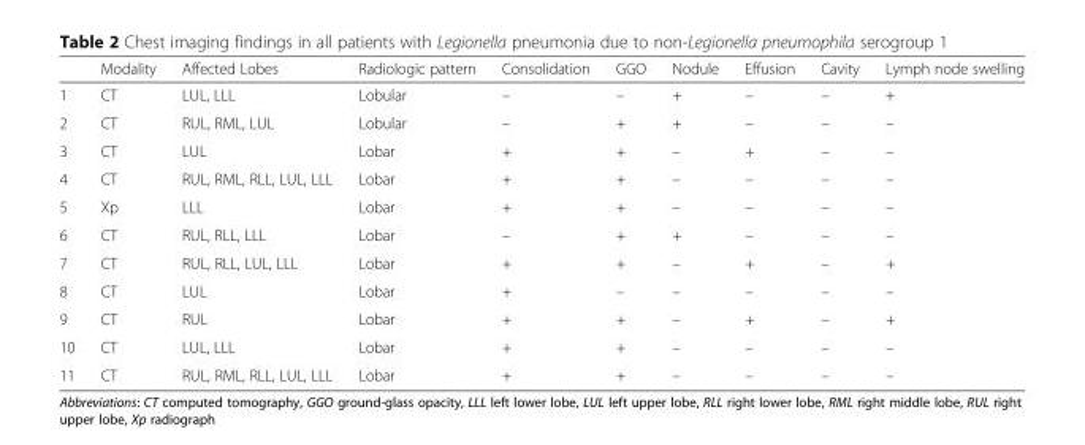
<table><thead><tr><td></td><td>Modality</td><td>Affected Lobes</td><td>Radiologic pattern</td><td>Consolidation</td><td>GGO</td><td>Nodule</td><td>Effusion</td><td>Cavity</td><td>Lymph node swelling</td></tr></thead><tbody><tr><td>1</td><td>CT</td><td>LUL, LLL</td><td>Lobular</td><td>–</td><td>–</td><td>+</td><td>–</td><td>–</td><td>+</td></tr><tr><td>2</td><td>CT</td><td>RUL, RML, LUL</td><td>Lobular</td><td>–</td><td>+</td><td>+</td><td>–</td><td>–</td><td>–</td></tr><tr><td>3</td><td>CT</td><td>LUL</td><td>Lobar</td><td>+</td><td>+</td><td>–</td><td>+</td><td>–</td><td>–</td></tr><tr><td>4</td><td>CT</td><td>RUL, RML, RLL, LUL, LLL</td><td>Lobar</td><td>+</td><td>+</td><td>–</td><td>–</td><td>–</td><td>–</td></tr><tr><td>5</td><td>Xp</td><td>LLL</td><td>Lobar</td><td>+</td><td>+</td><td>–</td><td>–</td><td>–</td><td>–</td></tr><tr><td>6</td><td>CT</td><td>RUL, RLL, LLL</td><td>Lobar</td><td>–</td><td>+</td><td>+</td><td>–</td><td>–</td><td>–</td></tr><tr><td>7</td><td>CT</td><td>RUL, RLL, LUL, LLL</td><td>Lobar</td><td>+</td><td>+</td><td>–</td><td>+</td><td>–</td><td>+</td></tr><tr><td>8</td><td>CT</td><td>LUL</td><td>Lobar</td><td>+</td><td>–</td><td>–</td><td>–</td><td>–</td><td>–</td></tr><tr><td>9</td><td>CT</td><td>RUL</td><td>Lobar</td><td>+</td><td>+</td><td>–</td><td>+</td><td>–</td><td>+</td></tr><tr><td>10</td><td>CT</td><td>LUL, LLL</td><td>Lobar</td><td>+</td><td>+</td><td>–</td><td>–</td><td>–</td><td>–</td></tr><tr><td>11</td><td>CT</td><td>RUL, RML, RLL, LUL, LLL</td><td>Lobar</td><td>+</td><td>+</td><td>–</td><td>–</td><td>–</td><td>–</td></tr></tbody></table>